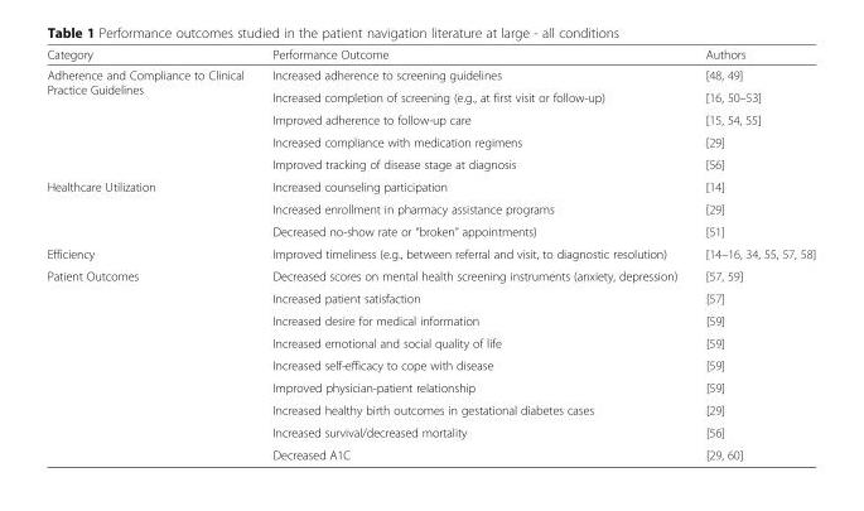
<table><thead><tr><td>Category</td><td>Performance Outcome</td><td>Authors</td></tr></thead><tbody><tr><td rowspan="5">Adherence and Compliance to Clinical Practice Guidelines</td><td>Increased adherence to screening guidelines</td><td>[48, 49]</td></tr><tr><td>Increased completion of screening (e.g., at first visit or follow-up)</td><td>[16, 50–53]</td></tr><tr><td>Improved adherence to follow-up care</td><td>[15, 54, 55]</td></tr><tr><td>Increased compliance with medication regimens</td><td>[29]</td></tr><tr><td>Improved tracking of disease stage at diagnosis</td><td>[56]</td></tr><tr><td rowspan="3">Healthcare Utilization</td><td>Increased counseling participation</td><td>[14]</td></tr><tr><td>Increased enrollment in pharmacy assistance programs</td><td>[29]</td></tr><tr><td>Decreased no-show rate or “broken” appointments)</td><td>[51]</td></tr><tr><td>Efficiency</td><td>Improved timeliness (e.g., between referral and visit, to diagnostic resolution)</td><td>[14–16, 34, 55, 57, 58]</td></tr><tr><td rowspan="9">Patient Outcomes</td><td>Decreased scores on mental health screening instruments (anxiety, depression)</td><td>[57, 59]</td></tr><tr><td>Increased patient satisfaction</td><td>[57]</td></tr><tr><td>Increased desire for medical information</td><td>[59]</td></tr><tr><td>Increased emotional and social quality of life</td><td>[59]</td></tr><tr><td>Increased self-efficacy to cope with disease</td><td>[59]</td></tr><tr><td>Improved physician-patient relationship</td><td>[59]</td></tr><tr><td>Increased healthy birth outcomes in gestational diabetes cases</td><td>[29]</td></tr><tr><td>Increased survival/decreased mortality</td><td>[56]</td></tr><tr><td>Decreased A1C</td><td>[29, 60]</td></tr></tbody></table>